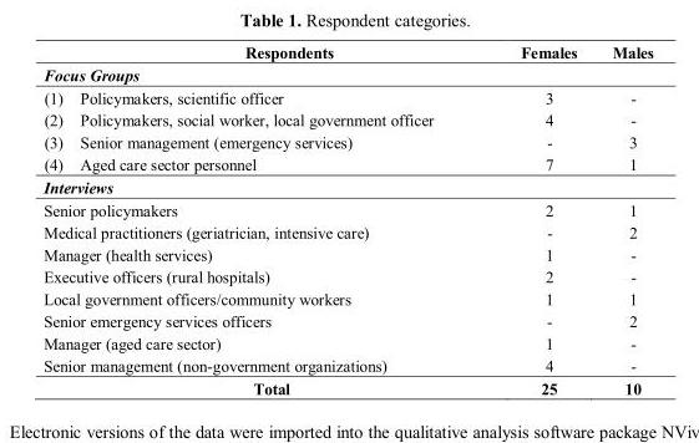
<table><thead><tr><td></td><td>Respondents</td><td>Females</td><td>Males</td></tr></thead><tbody><tr><td colspan="4">Focus Groups</td></tr><tr><td>(1)</td><td>Policymakers, scientific officer</td><td>3</td><td>-</td></tr><tr><td>(2)</td><td>Policymakers, social worker, local government officer</td><td>4</td><td>-</td></tr><tr><td>(3)</td><td>Senior management (emergency services)</td><td>-</td><td>3</td></tr><tr><td>(4)</td><td>Aged care sector personnel</td><td>7</td><td>1</td></tr><tr><td colspan="4">Interviews</td></tr><tr><td colspan="2">Senior policymakers</td><td>2</td><td>1</td></tr><tr><td colspan="2">Medical practitioners (geriatrician, intensive care)</td><td>-</td><td>2</td></tr><tr><td colspan="2">Manager (health services)</td><td>1</td><td>-</td></tr><tr><td colspan="2">Executive officers (rural hospitals)</td><td>2</td><td>-</td></tr><tr><td colspan="2">Local government officers/community workers</td><td>1</td><td>1</td></tr><tr><td colspan="2">Senior emergency services officers</td><td>-</td><td>2</td></tr><tr><td colspan="2">Manager (aged care sector)</td><td>1</td><td>-</td></tr><tr><td colspan="2">Senior management (non-government organizations)</td><td>4</td><td>-</td></tr><tr><td colspan="2">Total</td><td>25</td><td>10</td></tr></tbody></table>